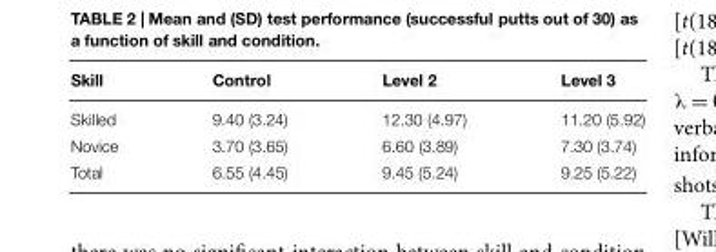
<table><thead><tr><td>Skill</td><td>Control</td><td>Level 2</td><td>Level 3</td></tr></thead><tbody><tr><td>Skilled</td><td>9.40 (3.24)</td><td>12.30 (4.97)</td><td>11.20 (5.92)</td></tr><tr><td>Novice</td><td>3.70 (3.65)</td><td>6.60 (3.89)</td><td>7.30 (3.74)</td></tr><tr><td>Total</td><td>6.55 (4.45)</td><td>9.45 (5.24)</td><td>9.25 (5.22)</td></tr></tbody></table>